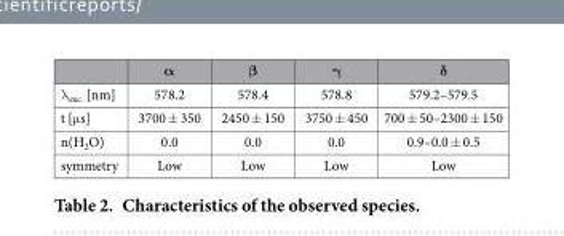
<table><thead><tr><td></td><td>α</td><td>β</td><td>γ</td><td>δ</td></tr></thead><tbody><tr><td>λ <sub>exc.</sub> [nm]</td><td>578.2</td><td>578.4</td><td>578.8</td><td>579.2–579.5</td></tr><tr><td>t [μ s]</td><td>3700 ± 350</td><td>2450 ± 150</td><td>3750 ± 450</td><td>700 ± 50–2300 ± 150</td></tr><tr><td>n(H<sub>2</sub>O)</td><td>0.0</td><td>0.0</td><td>0.0</td><td>0.9–0.0 ± 0.5</td></tr><tr><td>symmetry</td><td>Low</td><td>Low</td><td>Low</td><td>Low</td></tr></tbody></table>